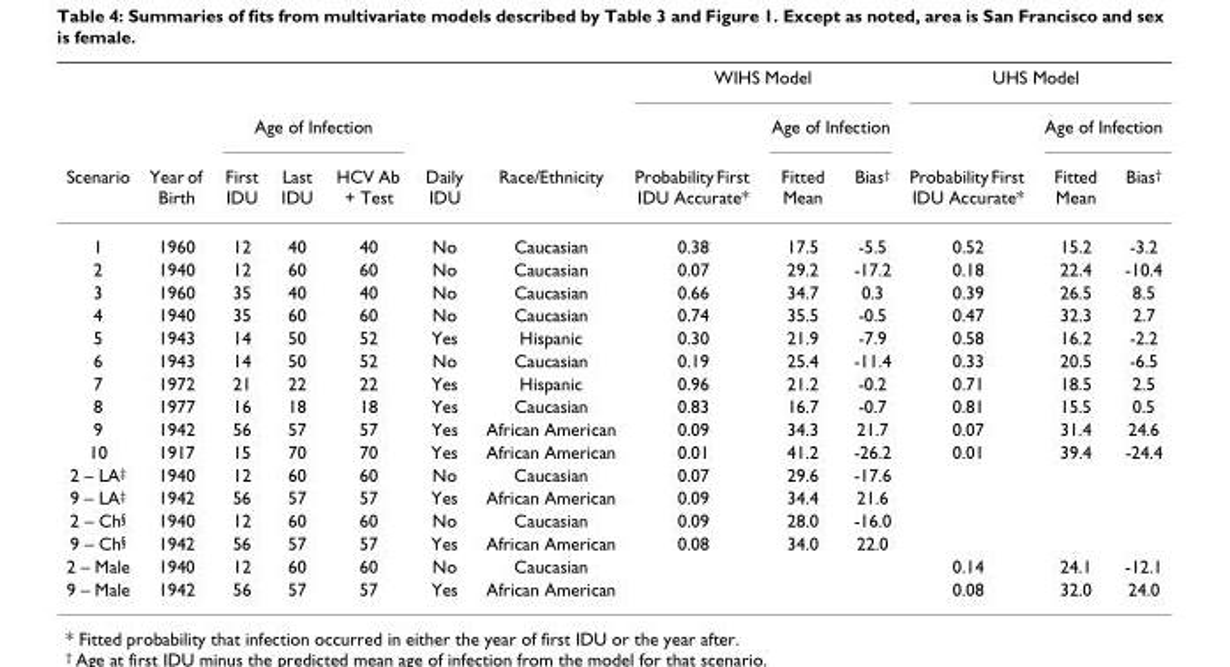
<table><thead><tr><td rowspan="3">Scenario</td><td rowspan="3">Year of Birth</td><td></td><td></td><td></td><td rowspan="3">Daily IDU</td><td rowspan="3">Race/Ethnicity</td><td colspan="3">WIHS Model</td><td colspan="3">UHS Model</td></tr><tr><td colspan="3">Age of Infection</td><td rowspan="2">Probability First IDU Accurate*</td><td colspan="2">Age of Infection</td><td rowspan="2">Probability First IDU Accurate*</td><td colspan="2">Age of Infection</td></tr><tr><td>First IDU</td><td>Last IDU</td><td>HCV Ab + Test</td><td>Fitted Mean</td><td>Bias<sup>†</sup></td><td>Fitted Mean</td><td>Bias<sup>†</sup></td></tr></thead><tbody><tr><td>1</td><td>1960</td><td>12</td><td>40</td><td>40</td><td>No</td><td>Caucasian</td><td>0.38</td><td>17.5</td><td>-5.5</td><td>0.52</td><td>15.2</td><td>-3.2</td></tr><tr><td>2</td><td>1940</td><td>12</td><td>60</td><td>60</td><td>No</td><td>Caucasian</td><td>0.07</td><td>29.2</td><td>-17.2</td><td>0.18</td><td>22.4</td><td>-10.4</td></tr><tr><td>3</td><td>1960</td><td>35</td><td>40</td><td>40</td><td>No</td><td>Caucasian</td><td>0.66</td><td>34.7</td><td>0.3</td><td>0.39</td><td>26.5</td><td>8.5</td></tr><tr><td>4</td><td>1940</td><td>35</td><td>60</td><td>60</td><td>No</td><td>Caucasian</td><td>0.74</td><td>35.5</td><td>-0.5</td><td>0.47</td><td>32.3</td><td>2.7</td></tr><tr><td>5</td><td>1943</td><td>14</td><td>50</td><td>52</td><td>Yes</td><td>Hispanic</td><td>0.30</td><td>21.9</td><td>-7.9</td><td>0.58</td><td>16.2</td><td>-2.2</td></tr><tr><td>6</td><td>1943</td><td>14</td><td>50</td><td>52</td><td>No</td><td>Caucasian</td><td>0.19</td><td>25.4</td><td>-11.4</td><td>0.33</td><td>20.5</td><td>-6.5</td></tr><tr><td>7</td><td>1972</td><td>21</td><td>22</td><td>22</td><td>Yes</td><td>Hispanic</td><td>0.96</td><td>21.2</td><td>-0.2</td><td>0.71</td><td>18.5</td><td>2.5</td></tr><tr><td>8</td><td>1977</td><td>16</td><td>18</td><td>18</td><td>Yes</td><td>Caucasian</td><td>0.83</td><td>16.7</td><td>-0.7</td><td>0.81</td><td>15.5</td><td>0.5</td></tr><tr><td>9</td><td>1942</td><td>56</td><td>57</td><td>57</td><td>Yes</td><td>African American</td><td>0.09</td><td>34.3</td><td>21.7</td><td>0.07</td><td>31.4</td><td>24.6</td></tr><tr><td>10</td><td>1917</td><td>15</td><td>70</td><td>70</td><td>Yes</td><td>African American</td><td>0.01</td><td>41.2</td><td>-26.2</td><td>0.01</td><td>39.4</td><td>-24.4</td></tr><tr><td>2 – LA<sup>‡</sup></td><td>1940</td><td>12</td><td>60</td><td>60</td><td>No</td><td>Caucasian</td><td>0.07</td><td>29.6</td><td>-17.6</td><td></td><td></td><td></td></tr><tr><td>9 – LA<sup>‡</sup></td><td>1942</td><td>56</td><td>57</td><td>57</td><td>Yes</td><td>African American</td><td>0.09</td><td>34.4</td><td>21.6</td><td></td><td></td><td></td></tr><tr><td>2 – Ch<sup>§</sup></td><td>1940</td><td>12</td><td>60</td><td>60</td><td>No</td><td>Caucasian</td><td>0.09</td><td>28.0</td><td>-16.0</td><td></td><td></td><td></td></tr><tr><td>9 – Ch<sup>§</sup></td><td>1942</td><td>56</td><td>57</td><td>57</td><td>Yes</td><td>African American</td><td>0.08</td><td>34.0</td><td>22.0</td><td></td><td></td><td></td></tr><tr><td>2 – Male</td><td>1940</td><td>12</td><td>60</td><td>60</td><td>No</td><td>Caucasian</td><td></td><td></td><td></td><td>0.14</td><td>24.1</td><td>-12.1</td></tr><tr><td>9 – Male</td><td>1942</td><td>56</td><td>57</td><td>57</td><td>Yes</td><td>African American</td><td></td><td></td><td></td><td>0.08</td><td>32.0</td><td>24.0</td></tr></tbody></table>